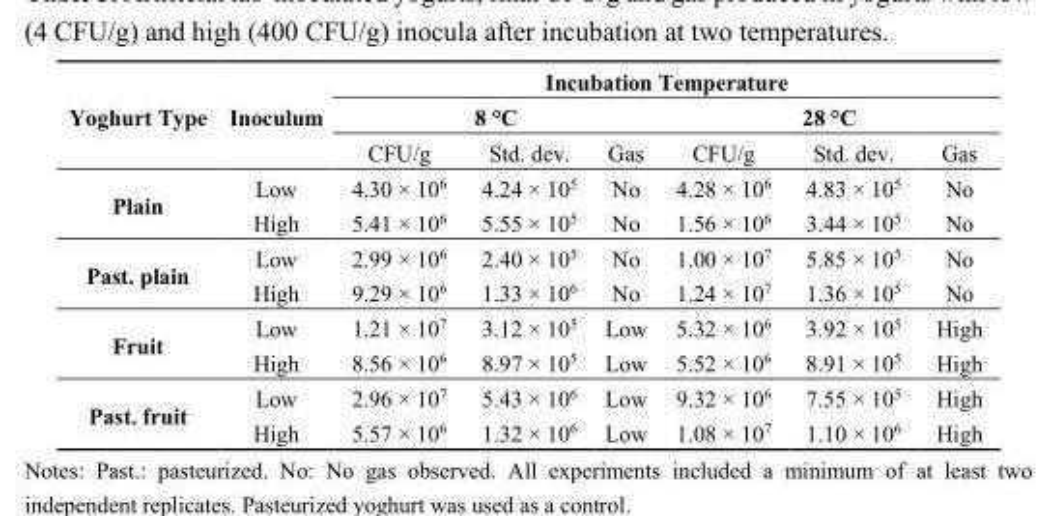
<table><thead><tr><td rowspan="3">Yoghurt Type</td><td rowspan="3">Inoculum</td><td colspan="6">Incubation Temperature</td></tr><tr><td colspan="3">8 °C</td><td colspan="3">28 °C</td></tr><tr><td>CFU/g</td><td>Std. dev.</td><td>Gas</td><td>CFU/g</td><td>Std. dev.</td><td>Gas</td></tr></thead><tbody><tr><td rowspan="2">Plain</td><td>Low</td><td>4.30 × 10<sup>6</sup></td><td>4.24 × 10<sup>5</sup></td><td>No</td><td>4.28 × 10<sup>6</sup></td><td>4.83 × 10<sup>5</sup></td><td>No</td></tr><tr><td>High</td><td>5.41 × 10<sup>6</sup></td><td>5.55 × 10<sup>5</sup></td><td>No</td><td>1.56 × 10<sup>6</sup></td><td>3.44 × 10<sup>5</sup></td><td>No</td></tr><tr><td rowspan="2">Past. plain</td><td>Low</td><td>2.99 × 10<sup>6</sup></td><td>2.40 × 10<sup>5</sup></td><td>No</td><td>1.00 × 10<sup>7</sup></td><td>5.85 × 10<sup>5</sup></td><td>No</td></tr><tr><td>High</td><td>9.29 × 10<sup>6</sup></td><td>1.33 × 10<sup>6</sup></td><td>No</td><td>1.24 × 10<sup>7</sup></td><td>1.36 × 10<sup>5</sup></td><td>No</td></tr><tr><td rowspan="2">Fruit</td><td>Low</td><td>1.21 × 10<sup>7</sup></td><td>3.12 × 10<sup>5</sup></td><td>Low</td><td>5.32 × 10<sup>6</sup></td><td>3.92 × 10<sup>5</sup></td><td>High</td></tr><tr><td>High</td><td>8.56 × 10<sup>6</sup></td><td>8.97 × 10<sup>5</sup></td><td>Low</td><td>5.52 × 10<sup>6</sup></td><td>8.91 × 10<sup>5</sup></td><td>High</td></tr><tr><td rowspan="2">Past. fruit</td><td>Low</td><td>2.96 × 10<sup>7</sup></td><td>5.43 × 10<sup>6</sup></td><td>Low</td><td>9.32 × 10<sup>6</sup></td><td>7.55 × 10<sup>5</sup></td><td>High</td></tr><tr><td>High</td><td>5.57 × 10<sup>6</sup></td><td>1.32 × 10<sup>6</sup></td><td>Low</td><td>1.08 × 10<sup>7</sup></td><td>1.10 × 10<sup>6</sup></td><td>High</td></tr></tbody></table>